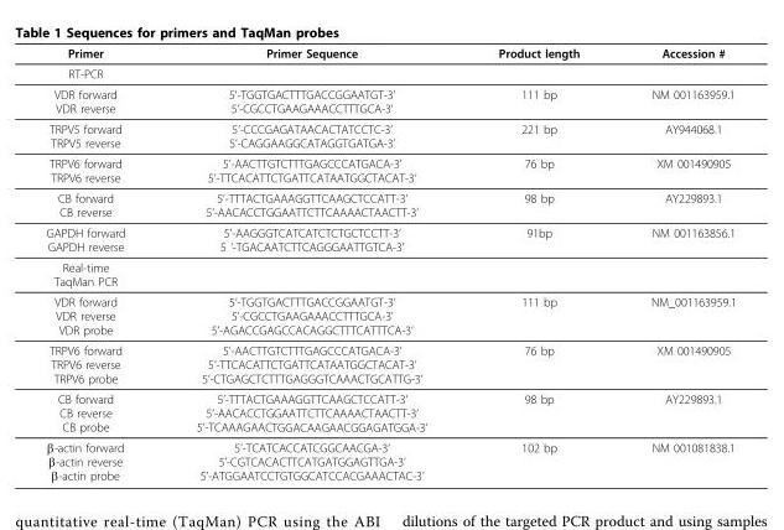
<table><thead><tr><td>Primer</td><td>Primer Sequence</td><td>Product length</td><td>Accession #</td></tr></thead><tbody><tr><td colspan="4">RT-PCR</td></tr><tr><td>VDR forward VDR reverse</td><td>5’-TGGTGACTTTGACCGGAATGT-3’ 5’-CGCCTGAAGAAACCTTTGCA-3’</td><td>111 bp</td><td>NM 001163959.1</td></tr><tr><td>TRPV5 forward TRPV5 reverse</td><td>5’-CCCGAGATAACACTATCCTC-3’ 5’-CAGGAAGGCATAGGTGATGA-3’</td><td>221 bp</td><td>AY944068.1</td></tr><tr><td>TRPV6 forward TRPV6 reverse</td><td>5’-AACTTGTCTTTGAGCCCATGACA-3’ 5’-TTCACATTCTGATTCATAATGGCTACAT-3’</td><td>76 bp</td><td>XM 001490905</td></tr><tr><td>CB forward CB reverse</td><td>5’-TTTACTGAAAGGTTCAAGCTCCATT-3’ 5’-AACACCTGGAATTCTTCAAAACTAACTT-3’</td><td>98 bp</td><td>AY229893.1</td></tr><tr><td>GAPDH forward GAPDH reverse</td><td>5’-AAGGGTCATCATCTCTGCTCCTT-3’ 5 ‘-TGACAATCTTCAGGGAATTGTCA-3’</td><td>91bp</td><td>NM 001163856.1</td></tr><tr><td colspan="4">Real-time TaqMan PCR</td></tr><tr><td>VDR forward VDR reverse VDR probe</td><td>5’-TGGTGACTTTGACCGGAATGT-3’ 5’-CGCCTGAAGAAACCTTTGCA-3’ 5’-AGACCGAGCCACAGGCTTTCATTTCA-3’</td><td>111 bp</td><td>NM_001163959.1</td></tr><tr><td>TRPV6 forward TRPV6 reverse TRPV6 probe</td><td>5’-AACTTGTCTTTGAGCCCATGACA-3’ 5’-TTCACATTCTGATTCATAATGGCTACAT-3’ 5’-CTGAGCTCTTTGAGGGTCAAACTGCATTG-3’</td><td>76 bp</td><td>XM 001490905</td></tr><tr><td>CB forward CB reverse CB probe</td><td>5’-TTTACTGAAAGGTTCAAGCTCCATT-3’ 5’-AACACCTGGAATTCTTCAAAACTAACTT-3’ 5’-TCAAAGAACTGGACAAGAACGGAGATGGA-3’</td><td>98 bp</td><td>AY229893.1</td></tr><tr><td>β-actin forward β-actin reverse β-actin probe</td><td>5’-TCATCACCATCGGCAACGA-3’ 5’-CGTCACACTTCATGATGGAGTTGA-3’ 5’-ATGGAATCCTGTGGCATCCACGAAACTAC-3’</td><td>102 bp</td><td>NM 001081838.1</td></tr></tbody></table>